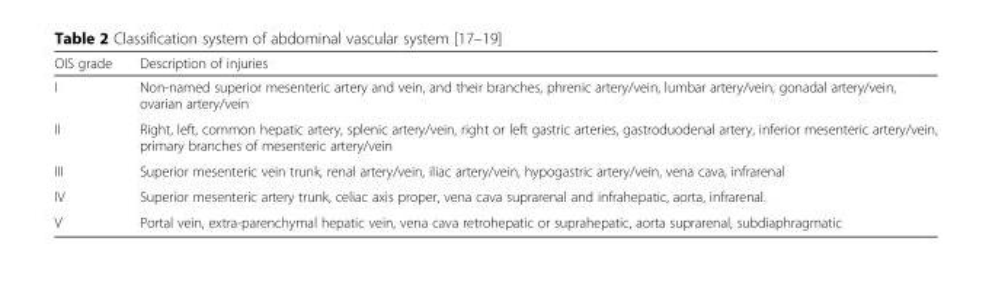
<table><thead><tr><td>OIS grade</td><td>Description of injuries</td></tr></thead><tbody><tr><td>I</td><td>Non-named superior mesenteric artery and vein, and their branches, phrenic artery/vein, lumbar artery/vein, gonadal artery/vein, ovarian artery/vein</td></tr><tr><td>II</td><td>Right, left, common hepatic artery, splenic artery/vein, right or left gastric arteries, gastroduodenal artery, inferior mesenteric artery/vein, primary branches of mesenteric artery/vein</td></tr><tr><td>III</td><td>Superior mesenteric vein trunk, renal artery/vein, iliac artery/vein, hypogastric artery/vein, vena cava, infrarenal</td></tr><tr><td>IV</td><td>Superior mesenteric artery trunk, celiac axis proper, vena cava suprarenal and infrahepatic, aorta, infrarenal.</td></tr><tr><td>V</td><td>Portal vein, extra-parenchymal hepatic vein, vena cava retrohepatic or suprahepatic, aorta suprarenal, subdiaphragmatic</td></tr></tbody></table>